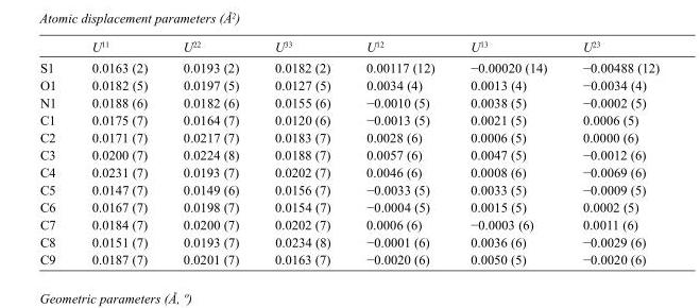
<table><thead><tr><td></td><td>U<sup>11</sup></td><td>U<sup>22</sup></td><td>U<sup>33</sup></td><td>U<sup>12</sup></td><td>U<sup>13</sup></td><td>U<sup>23</sup></td></tr></thead><tbody><tr><td>S1</td><td>0.0163 (2)</td><td>0.0193 (2)</td><td>0.0182 (2)</td><td>0.00117 (12)</td><td>−0.00020 (14)</td><td>−0.00488 (12)</td></tr><tr><td>O1</td><td>0.0182 (5)</td><td>0.0197 (5)</td><td>0.0127 (5)</td><td>0.0034 (4)</td><td>0.0013 (4)</td><td>−0.0034 (4)</td></tr><tr><td>N1</td><td>0.0188 (6)</td><td>0.0182 (6)</td><td>0.0155 (6)</td><td>−0.0010 (5)</td><td>0.0038 (5)</td><td>−0.0002 (5)</td></tr><tr><td>C1</td><td>0.0175 (7)</td><td>0.0164 (7)</td><td>0.0120 (6)</td><td>−0.0013 (5)</td><td>0.0021 (5)</td><td>0.0006 (5)</td></tr><tr><td>C2</td><td>0.0171 (7)</td><td>0.0217 (7)</td><td>0.0183 (7)</td><td>0.0028 (6)</td><td>0.0006 (5)</td><td>0.0000 (6)</td></tr><tr><td>C3</td><td>0.0200 (7)</td><td>0.0224 (8)</td><td>0.0188 (7)</td><td>0.0057 (6)</td><td>0.0047 (5)</td><td>−0.0012 (6)</td></tr><tr><td>C4</td><td>0.0231 (7)</td><td>0.0193 (7)</td><td>0.0202 (7)</td><td>0.0046 (6)</td><td>0.0008 (6)</td><td>−0.0069 (6)</td></tr><tr><td>C5</td><td>0.0147 (7)</td><td>0.0149 (6)</td><td>0.0156 (7)</td><td>−0.0033 (5)</td><td>0.0033 (5)</td><td>−0.0009 (5)</td></tr><tr><td>C6</td><td>0.0167 (7)</td><td>0.0198 (7)</td><td>0.0154 (7)</td><td>−0.0004 (5)</td><td>0.0015 (5)</td><td>0.0002 (5)</td></tr><tr><td>C7</td><td>0.0184 (7)</td><td>0.0200 (7)</td><td>0.0202 (7)</td><td>0.0006 (6)</td><td>−0.0003 (6)</td><td>0.0011 (6)</td></tr><tr><td>C8</td><td>0.0151 (7)</td><td>0.0193 (7)</td><td>0.0234 (8)</td><td>−0.0001 (6)</td><td>0.0036 (6)</td><td>−0.0029 (6)</td></tr><tr><td>C9</td><td>0.0187 (7)</td><td>0.0201 (7)</td><td>0.0163 (7)</td><td>−0.0020 (6)</td><td>0.0050 (5)</td><td>−0.0020 (6)</td></tr></tbody></table>